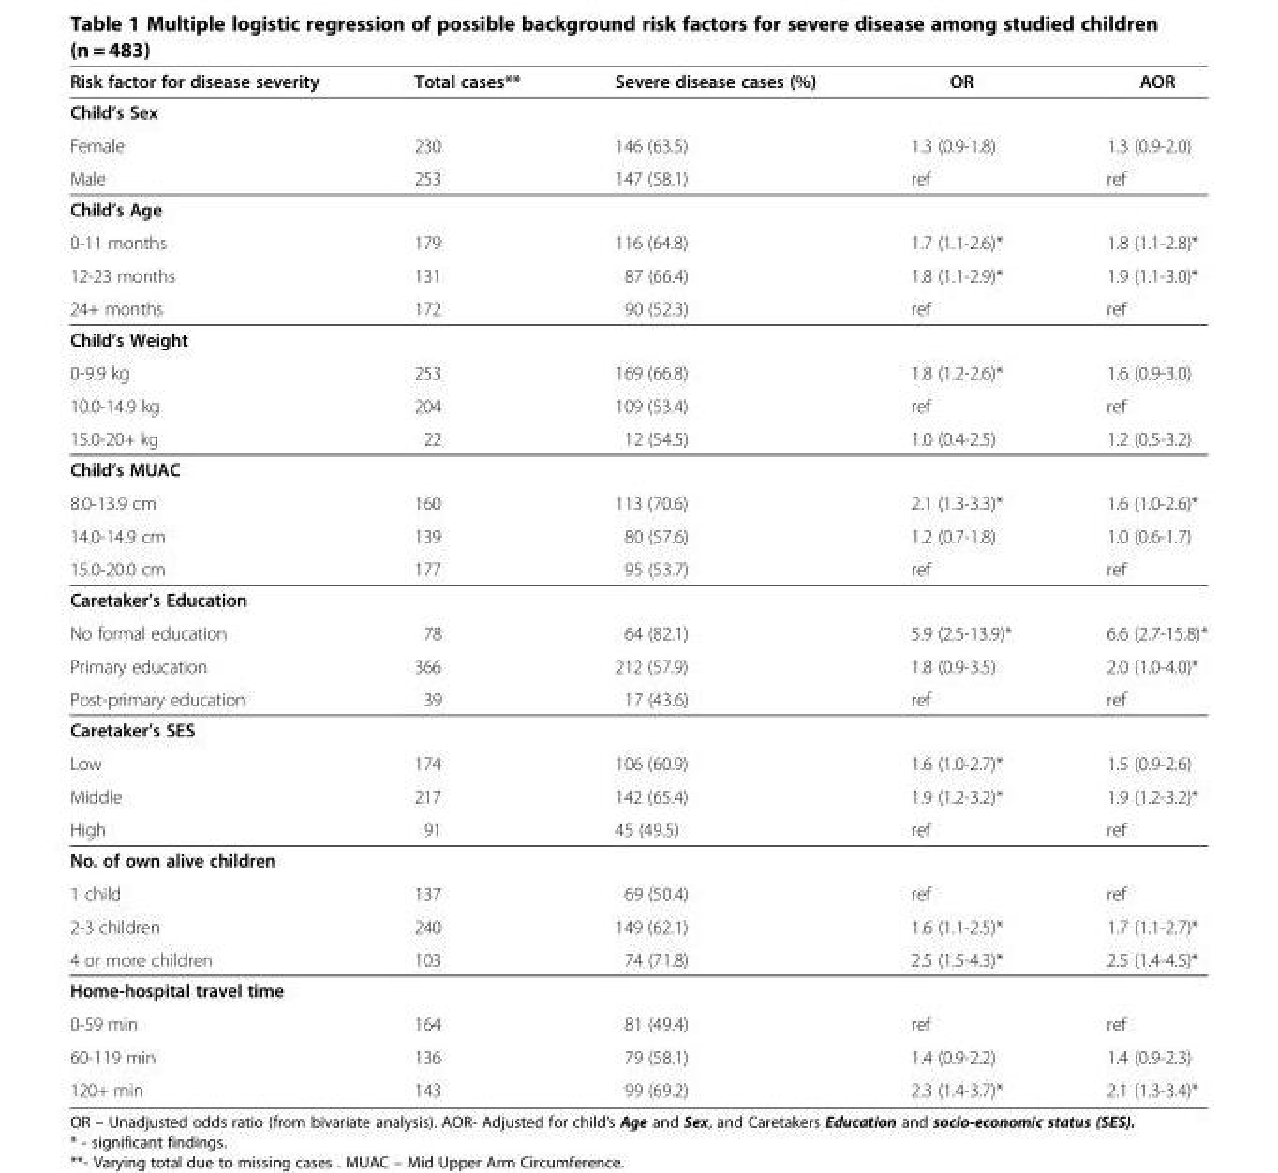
<table><thead><tr><td>Risk factor for disease severity</td><td>Total cases**</td><td>Severe disease cases (%)</td><td>OR</td><td>AOR</td></tr></thead><tbody><tr><td colspan="5">Child’s Sex</td></tr><tr><td>Female</td><td>230</td><td>146 (63.5)</td><td>1.3 (0.9-1.8)</td><td>1.3 (0.9-2.0)</td></tr><tr><td>Male</td><td>253</td><td>147 (58.1)</td><td>ref</td><td>ref</td></tr><tr><td colspan="5">Child’s Age</td></tr><tr><td>0-11 months</td><td>179</td><td>116 (64.8)</td><td>1.7 (1.1-2.6)*</td><td>1.8 (1.1-2.8)*</td></tr><tr><td>12-23 months</td><td>131</td><td>87 (66.4)</td><td>1.8 (1.1-2.9)*</td><td>1.9 (1.1-3.0)*</td></tr><tr><td>24+ months</td><td>172</td><td>90 (52.3)</td><td>ref</td><td>ref</td></tr><tr><td colspan="5">Child’s Weight</td></tr><tr><td>0-9.9 kg</td><td>253</td><td>169 (66.8)</td><td>1.8 (1.2-2.6)*</td><td>1.6 (0.9-3.0)</td></tr><tr><td>10.0-14.9 kg</td><td>204</td><td>109 (53.4)</td><td>ref</td><td>ref</td></tr><tr><td>15.0-20+ kg</td><td>22</td><td>12 (54.5)</td><td>1.0 (0.4-2.5)</td><td>1.2 (0.5-3.2)</td></tr><tr><td colspan="5">Child’s MUAC</td></tr><tr><td>8.0-13.9 cm</td><td>160</td><td>113 (70.6)</td><td>2.1 (1.3-3.3)*</td><td>1.6 (1.0-2.6)*</td></tr><tr><td>14.0-14.9 cm</td><td>139</td><td>80 (57.6)</td><td>1.2 (0.7-1.8)</td><td>1.0 (0.6-1.7)</td></tr><tr><td>15.0-20.0 cm</td><td>177</td><td>95 (53.7)</td><td>ref</td><td>ref</td></tr><tr><td colspan="5">Caretaker’s Education</td></tr><tr><td>No formal education</td><td>78</td><td>64 (82.1)</td><td>5.9 (2.5-13.9)*</td><td>6.6 (2.7-15.8)*</td></tr><tr><td>Primary education</td><td>366</td><td>212 (57.9)</td><td>1.8 (0.9-3.5)</td><td>2.0 (1.0-4.0)*</td></tr><tr><td>Post-primary education</td><td>39</td><td>17 (43.6)</td><td>ref</td><td>ref</td></tr><tr><td colspan="5">Caretaker’s SES</td></tr><tr><td>Low</td><td>174</td><td>106 (60.9)</td><td>1.6 (1.0-2.7)*</td><td>1.5 (0.9-2.6)</td></tr><tr><td>Middle</td><td>217</td><td>142 (65.4)</td><td>1.9 (1.2-3.2)*</td><td>1.9 (1.2-3.2)*</td></tr><tr><td>High</td><td>91</td><td>45 (49.5)</td><td>ref</td><td>ref</td></tr><tr><td colspan="5">No. of own alive children</td></tr><tr><td>1 child</td><td>137</td><td>69 (50.4)</td><td>ref</td><td>ref</td></tr><tr><td>2-3 children</td><td>240</td><td>149 (62.1)</td><td>1.6 (1.1-2.5)*</td><td>1.7 (1.1-2.7)*</td></tr><tr><td>4 or more children</td><td>103</td><td>74 (71.8)</td><td>2.5 (1.5-4.3)*</td><td>2.5 (1.4-4.5)*</td></tr><tr><td colspan="5">Home-hospital travel time</td></tr><tr><td>0-59 min</td><td>164</td><td>81 (49.4)</td><td>ref</td><td>ref</td></tr><tr><td>60-119 min</td><td>136</td><td>79 (58.1)</td><td>1.4 (0.9-2.2)</td><td>1.4 (0.9-2.3)</td></tr><tr><td>120+ min</td><td>143</td><td>99 (69.2)</td><td>2.3 (1.4-3.7)*</td><td>2.1 (1.3-3.4)*</td></tr></tbody></table>